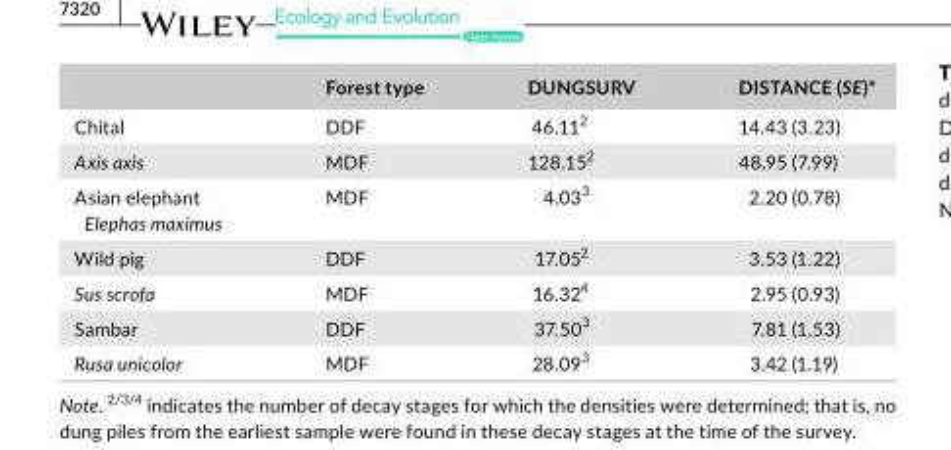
<table><thead><tr><td></td><td>Forest type</td><td>DUNGSURV</td><td>DISTANCE (SE)*</td></tr></thead><tbody><tr><td>Chital</td><td>DDF</td><td>46.11<sup>2</sup></td><td>14.43 (3.23)</td></tr><tr><td>Axis axis</td><td>MDF</td><td>128.15<sup>2</sup></td><td>48.95 (7.99)</td></tr><tr><td>Asian elephant Elephas maximus</td><td>MDF</td><td>4.03<sup>3</sup></td><td>2.20 (0.78)</td></tr><tr><td>Wild pig</td><td>DDF</td><td>17.05<sup>2</sup></td><td>3.53 (1.22)</td></tr><tr><td>Sus scrofa</td><td>MDF</td><td>16.32<sup>4</sup></td><td>2.95 (0.93)</td></tr><tr><td>Sambar</td><td>DDF</td><td>37.50<sup>3</sup></td><td>7.81 (1.53)</td></tr><tr><td>Rusa unicolor</td><td>MDF</td><td>28.09<sup>3</sup></td><td>3.42 (1.19)</td></tr></tbody></table>